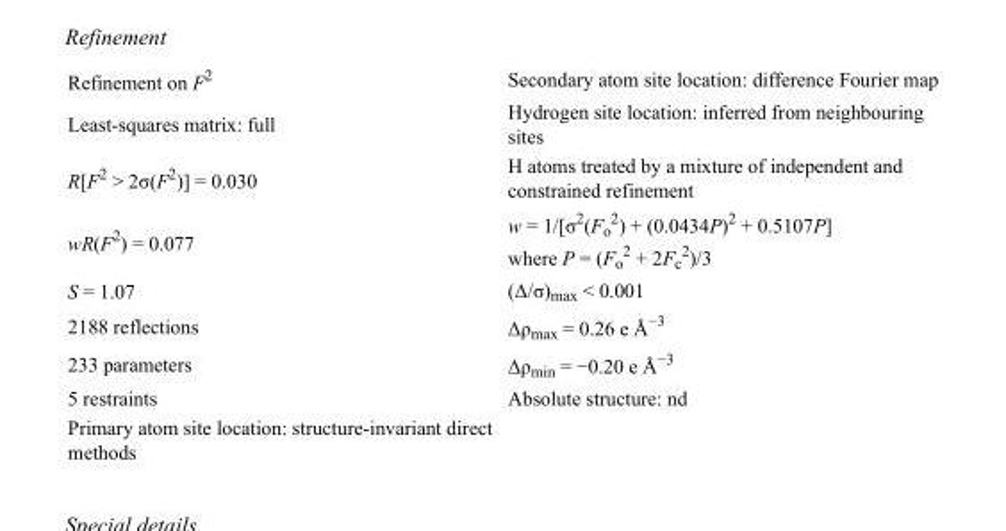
<table><tbody><tr><td>Refinement on F<sup>2</sup></td><td>Secondary atom site location: difference Fourier map</td></tr><tr><td>Least-squares matrix: full</td><td>Hydrogen site location: inferred from neighbouring sites</td></tr><tr><td>R[F<sup>2</sup> &gt; 2σ(F<sup>2</sup>)] = 0.030</td><td>H atoms treated by a mixture of independent and constrained refinement</td></tr><tr><td>wR(F<sup>2</sup>) = 0.077</td><td>w = 1/[σ<sup>2</sup>(F<sub>o</sub> <sup>2</sup>) + (0.0434P)<sup>2</sup> + 0.5107P] where P = (F<sub>o</sub> <sup>2</sup> + 2F<sub>c</sub> <sup>2</sup>)/3</td></tr><tr><td>S = 1.07</td><td>(Δ/σ)<sub>max</sub> &lt; 0.001</td></tr><tr><td>2188 reflections</td><td>Δρ<sub>max</sub> = 0.26 e Å<sup>−3</sup></td></tr><tr><td>233 parameters</td><td>Δρ<sub>min</sub> = −0.20 e Å<sup>−3</sup></td></tr><tr><td>5 restraints</td><td>Absolute structure: nd</td></tr><tr><td>Primary atom site location: structure-invariant direct methods</td><td></td></tr></tbody></table>